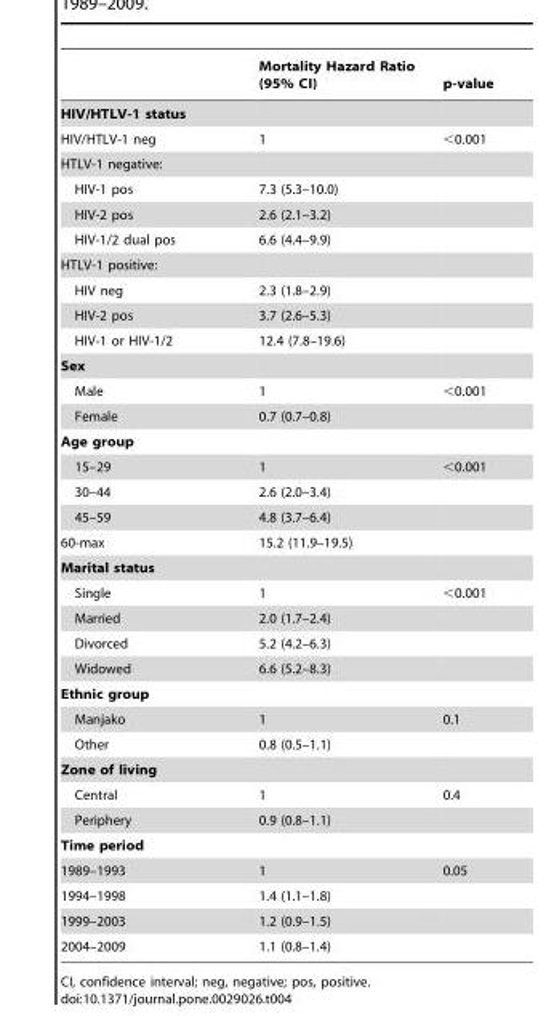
<table><thead><tr><td></td><td>Mortality Hazard Ratio (95% CI)</td><td>p-value</td></tr></thead><tbody><tr><td colspan="3">HIV/HTLV-1 status</td></tr><tr><td>HIV/HTLV-1 neg</td><td>1</td><td>&lt;0.001</td></tr><tr><td colspan="3">HTLV-1 negative:</td></tr><tr><td>HIV-1 pos</td><td>7.3 (5.3–10.0)</td><td></td></tr><tr><td>HIV-2 pos</td><td>2.6 (2.1–3.2)</td><td></td></tr><tr><td>HIV-1/2 dual pos</td><td>6.6 (4.4–9.9)</td><td></td></tr><tr><td colspan="3">HTLV-1 positive:</td></tr><tr><td>HIV neg</td><td>2.3 (1.8–2.9)</td><td></td></tr><tr><td>HIV-2 pos</td><td>3.7 (2.6–5.3)</td><td></td></tr><tr><td>HIV-1 or HIV-1/2</td><td>12.4 (7.8–19.6)</td><td></td></tr><tr><td colspan="3">Sex</td></tr><tr><td>Male</td><td>1</td><td>&lt;0.001</td></tr><tr><td>Female</td><td>0.7 (0.7–0.8)</td><td></td></tr><tr><td colspan="3">Age group</td></tr><tr><td>15–29</td><td>1</td><td>&lt;0.001</td></tr><tr><td>30–44</td><td>2.6 (2.0–3.4)</td><td></td></tr><tr><td>45–59</td><td>4.8 (3.7–6.4)</td><td></td></tr><tr><td>60-max</td><td>15.2 (11.9–19.5)</td><td></td></tr><tr><td colspan="3">Marital status</td></tr><tr><td>Single</td><td>1</td><td>&lt;0.001</td></tr><tr><td>Married</td><td>2.0 (1.7–2.4)</td><td></td></tr><tr><td>Divorced</td><td>5.2 (4.2–6.3)</td><td></td></tr><tr><td>Widowed</td><td>6.6 (5.2–8.3)</td><td></td></tr><tr><td colspan="3">Ethnic group</td></tr><tr><td>Manjako</td><td>1</td><td>0.1</td></tr><tr><td>Other</td><td>0.8 (0.5–1.1)</td><td></td></tr><tr><td colspan="3">Zone of living</td></tr><tr><td>Central</td><td>1</td><td>0.4</td></tr><tr><td>Periphery</td><td>0.9 (0.8–1.1)</td><td></td></tr><tr><td colspan="3">Time period</td></tr><tr><td>1989–1993</td><td>1</td><td>0.05</td></tr><tr><td>1994–1998</td><td>1.4 (1.1–1.8)</td><td></td></tr><tr><td>1999–2003</td><td>1.2 (0.9–1.5)</td><td></td></tr><tr><td>2004–2009</td><td>1.1 (0.8–1.4)</td><td></td></tr></tbody></table>